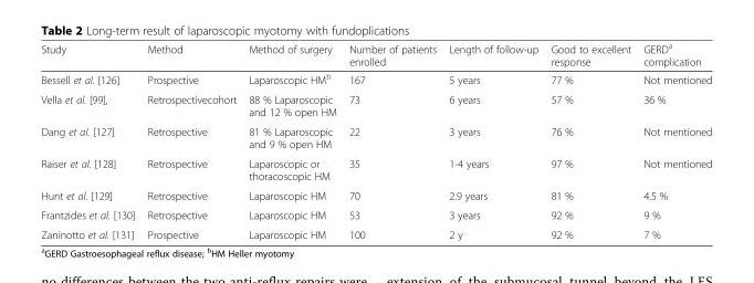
<table><thead><tr><td>Study</td><td>Method</td><td>Method of surgery</td><td>Number of patients enrolled</td><td>Length of follow-up</td><td>Good to excellent response</td><td>GERD<sup>a</sup> complication</td></tr></thead><tbody><tr><td>Bessell et al. [126]</td><td>Prospective</td><td>Laparoscopic HM<sup>b</sup></td><td>167</td><td>5 years</td><td>77 %</td><td>Not mentioned</td></tr><tr><td>Vella et al. [99],</td><td>Retrospectivecohort</td><td>88 % Laparoscopic and 12 % open HM</td><td>73</td><td>6 years</td><td>57 %</td><td>36 %</td></tr><tr><td>Dang et al. [127]</td><td>Retrospective</td><td>81 % Laparoscopic and 9 % open HM</td><td>22</td><td>3 years</td><td>76 %</td><td>Not mentioned</td></tr><tr><td>Raiser et al. [128]</td><td>Retrospective</td><td>Laparoscopic or thoracoscopic HM</td><td>35</td><td>1-4 years</td><td>97 %</td><td>Not mentioned</td></tr><tr><td>Hunt et al. [129]</td><td>Retrospective</td><td>Laparoscopic HM</td><td>70</td><td>2.9 years</td><td>81 %</td><td>4.5 %</td></tr><tr><td>Frantzides et al. [130]</td><td>Retrospective</td><td>Laparoscopic HM</td><td>53</td><td>3 years</td><td>92 %</td><td>9 %</td></tr><tr><td>Zaninotto et al. [131]</td><td>Prospective</td><td>Laparoscopic HM</td><td>100</td><td>2 y</td><td>92 %</td><td>7 %</td></tr></tbody></table>